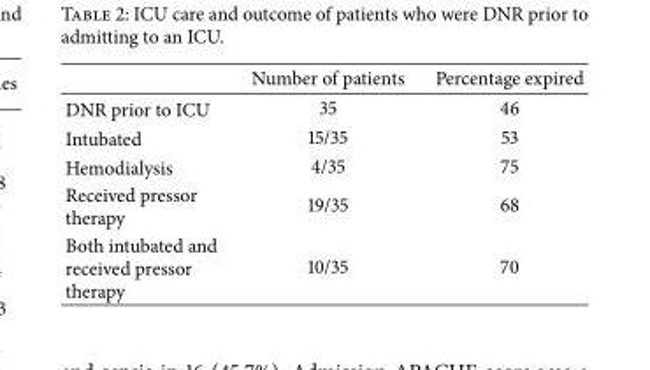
<table><thead><tr><td></td><td>Number of patients</td><td>Percentage expired</td></tr></thead><tbody><tr><td>DNR prior to ICU</td><td>35</td><td>46</td></tr><tr><td>Intubated</td><td>15/35</td><td>53</td></tr><tr><td>Hemodialysis</td><td>4/35</td><td>75</td></tr><tr><td>Received pressor therapy</td><td>19/35</td><td>68</td></tr><tr><td>Both intubated and received pressor therapy</td><td>10/35</td><td>70</td></tr></tbody></table>